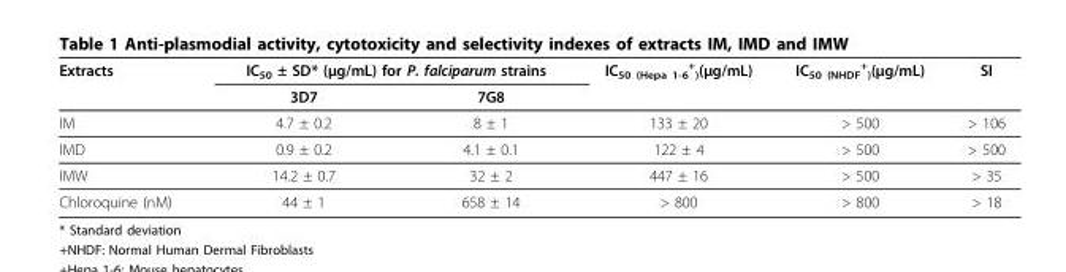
<table><thead><tr><td rowspan="2">Extracts</td><td colspan="2">IC<sub>50</sub> ± SD* (μg/mL) for P. falciparum strains</td><td rowspan="2">IC<sub>50 (Hepa 1-6</sub> <sup>+</sup> <sub>)</sub>(μg/mL)</td><td rowspan="2">IC<sub>50 (NHDF</sub> <sup>+</sup> <sub>)</sub>(μg/mL)</td><td rowspan="2">SI</td></tr><tr><td>3D7</td><td>7G8</td></tr></thead><tbody><tr><td>IM</td><td>4.7 ± 0.2</td><td>8 ± 1</td><td>133 ± 20</td><td>&gt; 500</td><td>&gt; 106</td></tr><tr><td>IMD</td><td>0.9 ± 0.2</td><td>4.1 ± 0.1</td><td>122 ± 4</td><td>&gt; 500</td><td>&gt; 500</td></tr><tr><td>IMW</td><td>14.2 ± 0.7</td><td>32 ± 2</td><td>447 ± 16</td><td>&gt; 500</td><td>&gt; 35</td></tr><tr><td>Chloroquine (nM)</td><td>44 ± 1</td><td>658 ± 14</td><td>&gt; 800</td><td>&gt; 800</td><td>&gt; 18</td></tr></tbody></table>